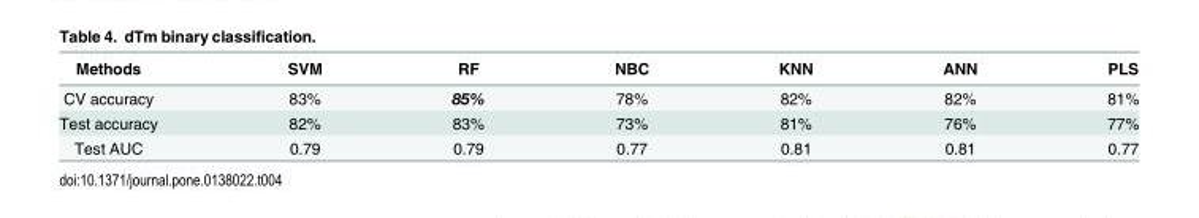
<table><thead><tr><td>Methods</td><td>SVM</td><td>RF</td><td>NBC</td><td>KNN</td><td>ANN</td><td>PLS</td></tr></thead><tbody><tr><td>CV accuracy</td><td>83%</td><td>85%</td><td>78%</td><td>82%</td><td>82%</td><td>81%</td></tr><tr><td>Test accuracy</td><td>82%</td><td>83%</td><td>73%</td><td>81%</td><td>76%</td><td>77%</td></tr><tr><td>Test AUC</td><td>0.79</td><td>0.79</td><td>0.77</td><td>0.81</td><td>0.81</td><td>0.77</td></tr></tbody></table>